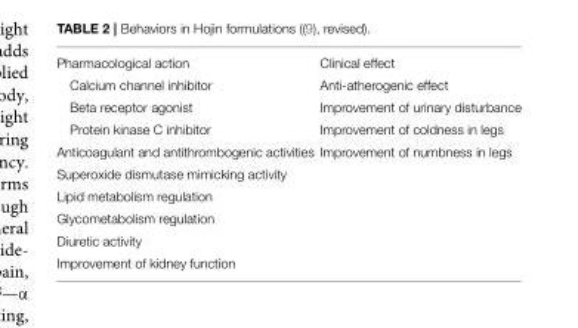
<table><tbody><tr><td>Pharmacological action</td><td>Clinical effect</td></tr><tr><td>Calcium channel inhibitor</td><td>Anti-atherogenic effect</td></tr><tr><td>Beta receptor agonist</td><td>Improvement of urinary disturbance</td></tr><tr><td>Protein kinase C inhibitor</td><td>Improvement of coldness in legs</td></tr><tr><td>Anticoagulant and antithrombogenic activities</td><td>Improvement of numbness in legs</td></tr><tr><td colspan="2">Superoxide dismutase mimicking activity</td></tr><tr><td colspan="2">Lipid metabolism regulation</td></tr><tr><td colspan="2">Glycometabolism regulation</td></tr><tr><td colspan="2">Diuretic activity</td></tr><tr><td>Improvement of kidney function</td><td></td></tr></tbody></table>